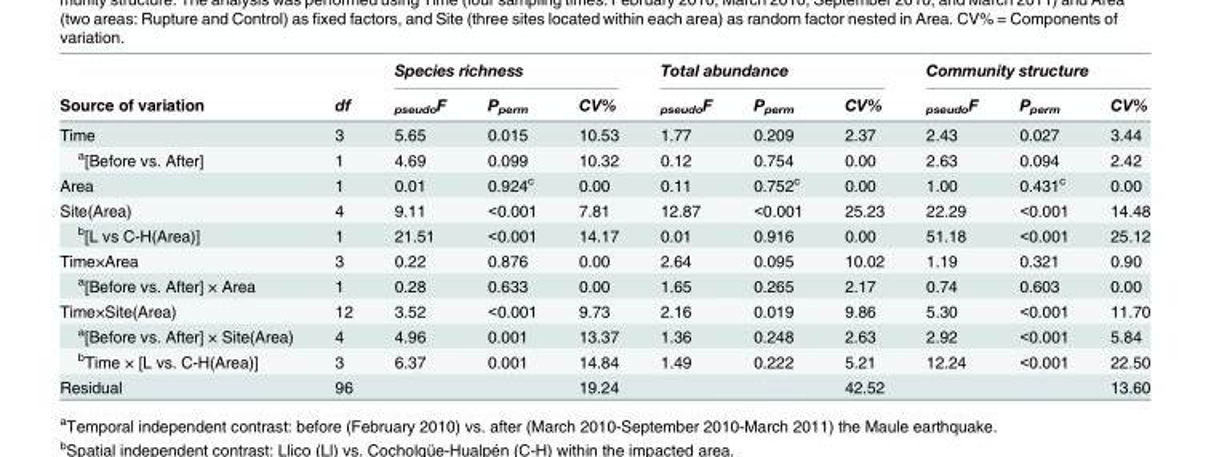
<table><thead><tr><td rowspan="2">Source of variation</td><td rowspan="2">df</td><td colspan="3">Species richness</td><td colspan="3">Total abundance</td><td colspan="3">Community structure</td></tr><tr><td><sub>pseudo</sub>F</td><td>P<sub>perm</sub></td><td>CV%</td><td><sub>pseudo</sub>F</td><td>P<sub>perm</sub></td><td>CV%</td><td><sub>pseudo</sub>F</td><td>P<sub>perm</sub></td><td>CV%</td></tr></thead><tbody><tr><td>Time</td><td>3</td><td>5.65</td><td>0.015</td><td>10.53</td><td>1.77</td><td>0.209</td><td>2.37</td><td>2.43</td><td>0.027</td><td>3.44</td></tr><tr><td><sup>a</sup>[Before vs. After]</td><td>1</td><td>4.69</td><td>0.099</td><td>10.32</td><td>0.12</td><td>0.754</td><td>0.00</td><td>2.63</td><td>0.094</td><td>2.42</td></tr><tr><td>Area</td><td>1</td><td>0.01</td><td>0.924<sup>c</sup></td><td>0.00</td><td>0.11</td><td>0.752<sup>c</sup></td><td>0.00</td><td>1.00</td><td>0.431<sup>c</sup></td><td>0.00</td></tr><tr><td>Site(Area)</td><td>4</td><td>9.11</td><td>&lt;0.001</td><td>7.81</td><td>12.87</td><td>&lt;0.001</td><td>25.23</td><td>22.29</td><td>&lt;0.001</td><td>14.48</td></tr><tr><td><sup>b</sup>[L vs C-H(Area)]</td><td>1</td><td>21.51</td><td>&lt;0.001</td><td>14.17</td><td>0.01</td><td>0.916</td><td>0.00</td><td>51.18</td><td>&lt;0.001</td><td>25.12</td></tr><tr><td>Time×Area</td><td>3</td><td>0.22</td><td>0.876</td><td>0.00</td><td>2.64</td><td>0.095</td><td>10.02</td><td>1.19</td><td>0.321</td><td>0.90</td></tr><tr><td><sup>a</sup>[Before vs. After] × Area</td><td>1</td><td>0.28</td><td>0.633</td><td>0.00</td><td>1.65</td><td>0.265</td><td>2.17</td><td>0.74</td><td>0.603</td><td>0.00</td></tr><tr><td>Time×Site(Area)</td><td>12</td><td>3.52</td><td>&lt;0.001</td><td>9.73</td><td>2.16</td><td>0.019</td><td>9.86</td><td>5.30</td><td>&lt;0.001</td><td>11.70</td></tr><tr><td><sup>a</sup>[Before vs. After] × Site(Area)</td><td>4</td><td>4.96</td><td>0.001</td><td>13.37</td><td>1.36</td><td>0.248</td><td>2.63</td><td>2.92</td><td>&lt;0.001</td><td>5.84</td></tr><tr><td><sup>b</sup>Time × [L vs. C-H(Area)]</td><td>3</td><td>6.37</td><td>0.001</td><td>14.84</td><td>1.49</td><td>0.222</td><td>5.21</td><td>12.24</td><td>&lt;0.001</td><td>22.50</td></tr><tr><td>Residual</td><td>96</td><td></td><td></td><td>19.24</td><td></td><td></td><td>42.52</td><td></td><td></td><td>13.60</td></tr></tbody></table>